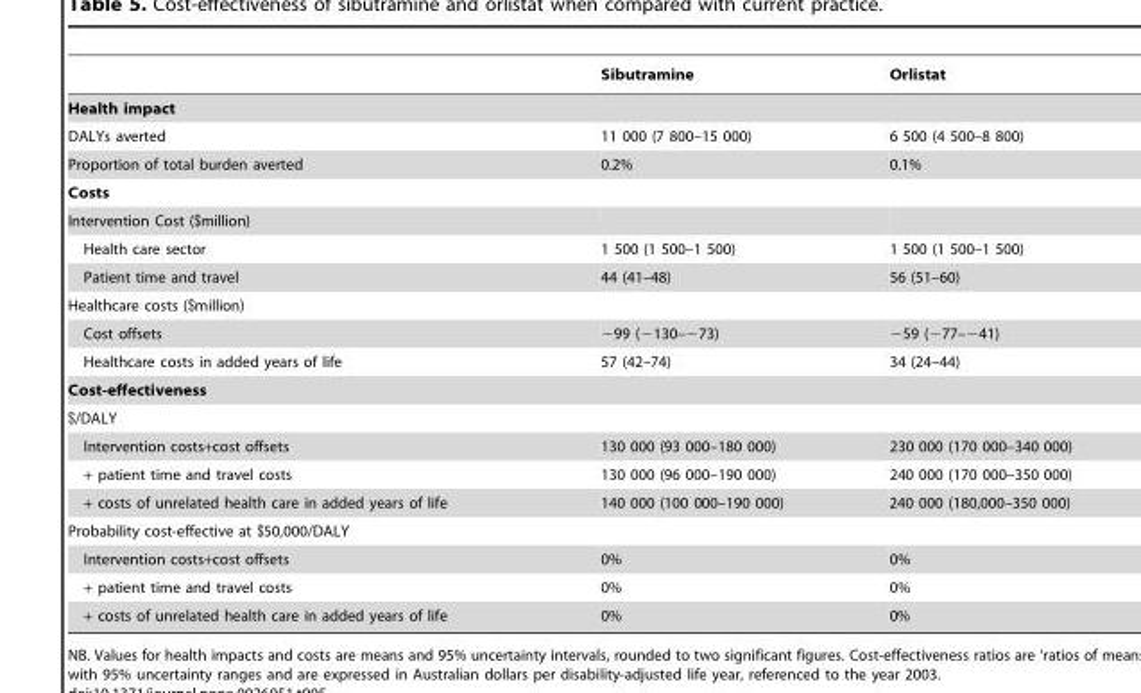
<table><thead><tr><td></td><td>Sibutramine</td><td>Orlistat</td></tr></thead><tbody><tr><td colspan="3">Health impact</td></tr><tr><td>DALYs averted</td><td>11 000 (7 800–15 000)</td><td>6 500 (4 500–8 800)</td></tr><tr><td>Proportion of total burden averted</td><td>0.2%</td><td>0.1%</td></tr><tr><td colspan="3">Costs</td></tr><tr><td colspan="3">Intervention Cost ($million)</td></tr><tr><td>Health care sector</td><td>1 500 (1 500–1 500)</td><td>1 500 (1 500–1 500)</td></tr><tr><td>Patient time and travel</td><td>44 (41–48)</td><td>56 (51–60)</td></tr><tr><td colspan="3">Healthcare costs ($million)</td></tr><tr><td>Cost offsets</td><td>−99 (−130–−73)</td><td>−59 (−77–−41)</td></tr><tr><td>Healthcare costs in added years of life</td><td>57 (42–74)</td><td>34 (24–44)</td></tr><tr><td colspan="3">Cost-effectiveness</td></tr><tr><td colspan="3">$/DALY</td></tr><tr><td>Intervention costs+cost offsets</td><td>130 000 (93 000–180 000)</td><td>230 000 (170 000–340 000)</td></tr><tr><td>+ patient time and travel costs</td><td>130 000 (96 000–190 000)</td><td>240 000 (170 000–350 000)</td></tr><tr><td>+ costs of unrelated health care in added years of life</td><td>140 000 (100 000–190 000)</td><td>240 000 (180,000–350 000)</td></tr><tr><td colspan="3">Probability cost-effective at $50,000/DALY</td></tr><tr><td>Intervention costs+cost offsets</td><td>0%</td><td>0%</td></tr><tr><td>+ patient time and travel costs</td><td>0%</td><td>0%</td></tr><tr><td>+ costs of unrelated health care in added years of life</td><td>0%</td><td>0%</td></tr></tbody></table>